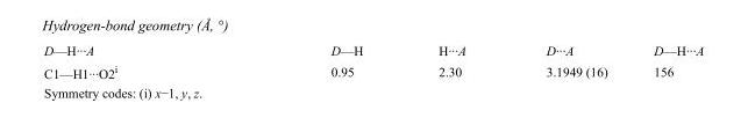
<table><tbody><tr><td>D—H···A</td><td>D—H</td><td>H···A</td><td>D···A</td><td>D—H···A</td></tr><tr><td>C1—H1···O2<sup>i</sup></td><td>0.95</td><td>2.30</td><td>3.1949 (16)</td><td>156</td></tr></tbody></table>